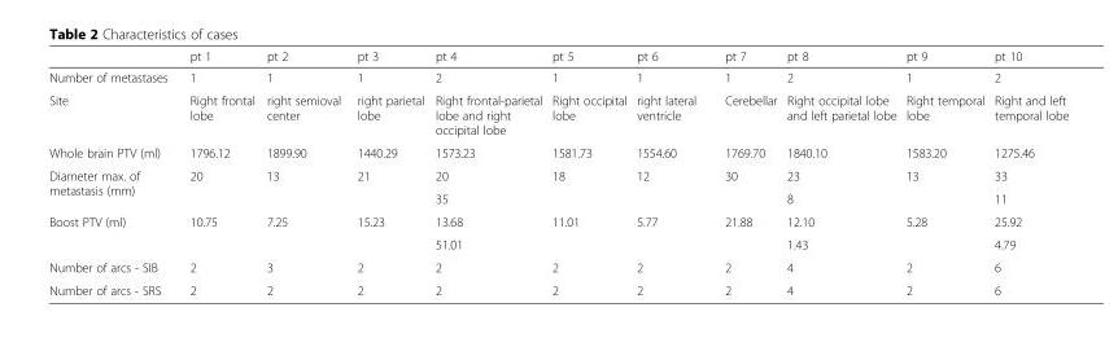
<table><thead><tr><td></td><td>pt 1</td><td>pt 2</td><td>pt 3</td><td>pt 4</td><td>pt 5</td><td>pt 6</td><td>pt 7</td><td>pt 8</td><td>pt 9</td><td>pt 10</td></tr></thead><tbody><tr><td>Number of metastases</td><td>1</td><td>1</td><td>1</td><td>2</td><td>1</td><td>1</td><td>1</td><td>2</td><td>1</td><td>2</td></tr><tr><td>Site</td><td>Right frontal lobe</td><td>right semioval center</td><td>right parietal lobe</td><td>Right frontal-parietal lobe and right occipital lobe</td><td>Right occipital lobe</td><td>right lateral ventricle</td><td>Cerebellar</td><td>Right occipital lobe and left parietal lobe</td><td>Right temporal lobe</td><td>Right and left temporal lobe</td></tr><tr><td>Whole brain PTV (ml)</td><td>1796.12</td><td>1899.90</td><td>1440.29</td><td>1573.23</td><td>1581.73</td><td>1554.60</td><td>1769.70</td><td>1840.10</td><td>1583.20</td><td>1275.46</td></tr><tr><td rowspan="2">Diameter max. of metastasis (mm)</td><td>20</td><td>13</td><td>21</td><td>20</td><td>18</td><td>12</td><td>30</td><td>23</td><td>13</td><td>33</td></tr><tr><td></td><td></td><td></td><td>35</td><td></td><td></td><td></td><td>8</td><td></td><td>11</td></tr><tr><td rowspan="2">Boost PTV (ml)</td><td>10.75</td><td>7.25</td><td>15.23</td><td>13.68</td><td>11.01</td><td>5.77</td><td>21.88</td><td>12.10</td><td>5.28</td><td>25.92</td></tr><tr><td></td><td></td><td></td><td>51.01</td><td></td><td></td><td></td><td>1.43</td><td></td><td>4.79</td></tr><tr><td>Number of arcs - SIB</td><td>2</td><td>3</td><td>2</td><td>2</td><td>2</td><td>2</td><td>2</td><td>4</td><td>2</td><td>6</td></tr><tr><td>Number of arcs - SRS</td><td>2</td><td>2</td><td>2</td><td>2</td><td>2</td><td>2</td><td>2</td><td>4</td><td>2</td><td>6</td></tr></tbody></table>